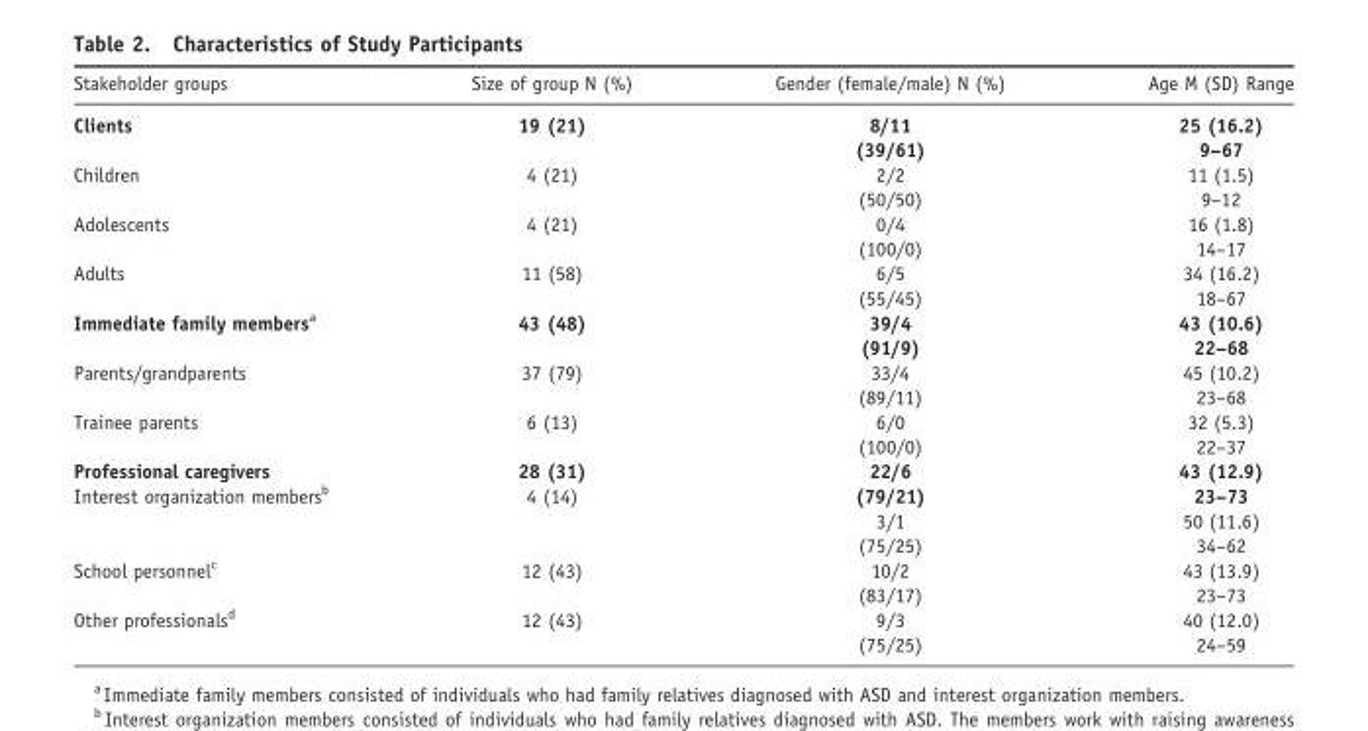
<table><thead><tr><td>Stakeholder groups</td><td>Size of group N (%)</td><td>Gender (female/male) N (%)</td><td>Age M (SD) Range</td></tr></thead><tbody><tr><td>Clients</td><td>19 (21)</td><td>8/11 (39/61)</td><td>25 (16.2) 9–67</td></tr><tr><td>Children</td><td>4 (21)</td><td>2/2 (50/50)</td><td>11 (1.5) 9–12</td></tr><tr><td>Adolescents</td><td>4 (21)</td><td>0/4 (100/0)</td><td>16 (1.8) 14–17</td></tr><tr><td>Adults</td><td>11 (58)</td><td>6/5 (55/45)</td><td>34 (16.2) 18–67</td></tr><tr><td>Immediate family members<sup>a</sup></td><td>43 (48)</td><td>39/4 (91/9)</td><td>43 (10.6) 22–68</td></tr><tr><td>Parents/grandparents</td><td>37 (79)</td><td>33/4 (89/11)</td><td>45 (10.2) 23–68</td></tr><tr><td>Trainee parents</td><td>6 (13)</td><td>6/0 (100/0)</td><td>32 (5.3) 22–37</td></tr><tr><td>Professional caregivers Interest organization members<sup>b</sup></td><td>28 (31) 4 (14)</td><td>22/6 (79/21) 3/1 (75/25)</td><td>43 (12.9) 23–73 50 (11.6) 34–62</td></tr><tr><td>School personnel<sup>c</sup></td><td>12 (43)</td><td>10/2 (83/17)</td><td>43 (13.9) 23–73</td></tr><tr><td>Other professionals<sup>d</sup></td><td>12 (43)</td><td>9/3 (75/25)</td><td>40 (12.0) 24–59</td></tr></tbody></table>